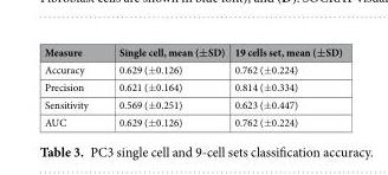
<table><thead><tr><td>Measure</td><td>Single cell, mean (±SD)</td><td>19 cells set, mean (±SD)</td></tr></thead><tbody><tr><td>Accuracy</td><td>0.629 (±0.126)</td><td>0.762 (±0.224)</td></tr><tr><td>Precision</td><td>0.621 (±0.164)</td><td>0.814 (±0.334)</td></tr><tr><td>Sensitivity</td><td>0.569 (±0.251)</td><td>0.623 (±0.447)</td></tr><tr><td>AUC</td><td>0.629 (±0.126)</td><td>0.762 (±0.224)</td></tr></tbody></table>